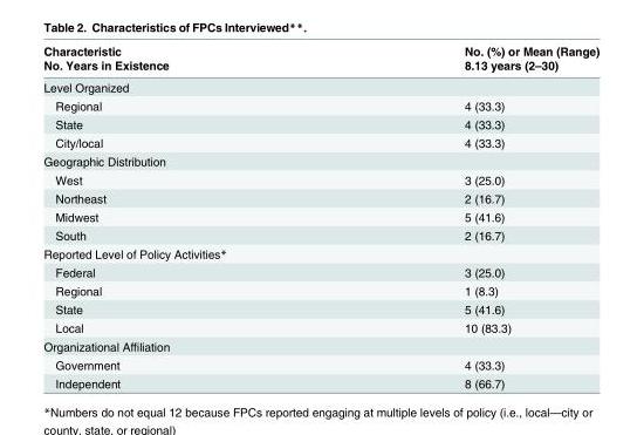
<table><thead><tr><td rowspan="2">Characteristic No. Years in Existence</td><td rowspan="2">No. (%) or Mean (Range) 8.13 years (2–30)</td></tr><tr></tr></thead><tbody><tr><td colspan="2">Level Organized</td></tr><tr><td>Regional</td><td>4 (33.3)</td></tr><tr><td>State</td><td>4 (33.3)</td></tr><tr><td>City/local</td><td>4 (33.3)</td></tr><tr><td colspan="2">Geographic Distribution</td></tr><tr><td>West</td><td>3 (25.0)</td></tr><tr><td>Northeast</td><td>2 (16.7)</td></tr><tr><td>Midwest</td><td>5 (41.6)</td></tr><tr><td>South</td><td>2 (16.7)</td></tr><tr><td colspan="2">Reported Level of Policy Activities*</td></tr><tr><td>Federal</td><td>3 (25.0)</td></tr><tr><td>Regional</td><td>1 (8.3)</td></tr><tr><td>State</td><td>5 (41.6)</td></tr><tr><td>Local</td><td>10 (83.3)</td></tr><tr><td colspan="2">Organizational Affiliation</td></tr><tr><td>Government</td><td>4 (33.3)</td></tr><tr><td>Independent</td><td>8 (66.7)</td></tr></tbody></table>